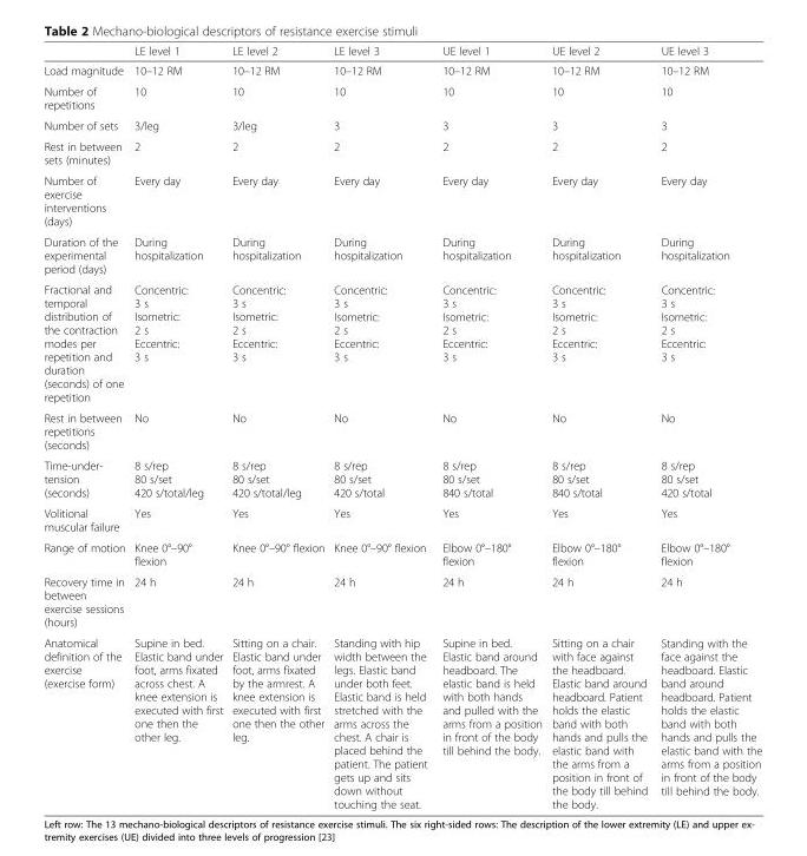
<table><thead><tr><td></td><td>LE level 1</td><td>LE level 2</td><td>LE level 3</td><td>UE level 1</td><td>UE level 2</td><td>UE level 3</td></tr></thead><tbody><tr><td>Load magnitude</td><td>10–12 RM</td><td>10–12 RM</td><td>10–12 RM</td><td>10–12 RM</td><td>10–12 RM</td><td>10–12 RM</td></tr><tr><td>Number of repetitions</td><td>10</td><td>10</td><td>10</td><td>10</td><td>10</td><td>10</td></tr><tr><td>Number of sets</td><td>3/leg</td><td>3/leg</td><td>3</td><td>3</td><td>3</td><td>3</td></tr><tr><td>Rest in between sets (minutes)</td><td>2</td><td>2</td><td>2</td><td>2</td><td>2</td><td>2</td></tr><tr><td>Number of exercise interventions (days)</td><td>Every day</td><td>Every day</td><td>Every day</td><td>Every day</td><td>Every day</td><td>Every day</td></tr><tr><td>Duration of the experimental period (days)</td><td>During hospitalization</td><td>During hospitalization</td><td>During hospitalization</td><td>During hospitalization</td><td>During hospitalization</td><td>During hospitalization</td></tr><tr><td>Fractional and temporal distribution of the contraction modes per repetition and duration (seconds) of one repetition</td><td>Concentric: 3 s Isometric: 2 s Eccentric: 3 s</td><td>Concentric: 3 s Isometric: 2 s Eccentric: 3 s</td><td>Concentric: 3 s Isometric: 2 s Eccentric: 3 s</td><td>Concentric: 3 s Isometric: 2 s Eccentric: 3 s</td><td>Concentric: 3 s Isometric: 2 s Eccentric: 3 s</td><td>Concentric: 3 s Isometric: 2 s Eccentric: 3 s</td></tr><tr><td>Rest in between repetitions (seconds)</td><td>No</td><td>No</td><td>No</td><td>No</td><td>No</td><td>No</td></tr><tr><td>Time-under- tension (seconds)</td><td>8 s/rep 80 s/set 420 s/total/leg</td><td>8 s/rep 80 s/set 420 s/total/leg</td><td>8 s/rep 80 s/set 420 s/total</td><td>8 s/rep 80 s/set 840 s/total</td><td>8 s/rep 80 s/set 840 s/total</td><td>8 s/rep 80 s/set 420 s/total</td></tr><tr><td>Volitional muscular failure</td><td>Yes</td><td>Yes</td><td>Yes</td><td>Yes</td><td>Yes</td><td>Yes</td></tr><tr><td>Range of motion</td><td>Knee 0°–90° flexion</td><td>Knee 0°–90° flexion</td><td>Knee 0°–90° flexion</td><td>Elbow 0°–180° flexion</td><td>Elbow 0°–180° flexion</td><td>Elbow 0°–180° flexion</td></tr><tr><td>Recovery time in between exercise sessions (hours)</td><td>24 h</td><td>24 h</td><td>24 h</td><td>24 h</td><td>24 h</td><td>24 h</td></tr><tr><td>Anatomical definition of the exercise (exercise form)</td><td>Supine in bed. Elastic band under foot, arms fixated across chest. A knee extension is executed with first one then the other leg.</td><td>Sitting on a chair. Elastic band under foot, arms fixated by the armrest. A knee extension is executed with first one then the other leg.</td><td>Standing with hip width between the legs. Elastic band under both feet. Elastic band is held stretched with the arms across the chest. A chair is placed behind the patient. The patient gets up and sits down without touching the seat.</td><td>Supine in bed. Elastic band around headboard. The elastic band is held with both hands and pulled with the arms from a position in front of the body till behind the body.</td><td>Sitting on a chair with face against the headboard. Elastic band around headboard. Patient holds the elastic band with both hands and pulls the elastic band with the arms from a position in front of the body till behind the body.</td><td>Standing with the face against the headboard. Elastic band around headboard. Patient holds the elastic band with both hands and pulls the elastic band with the arms from a position in front of the body till behind the body.</td></tr></tbody></table>